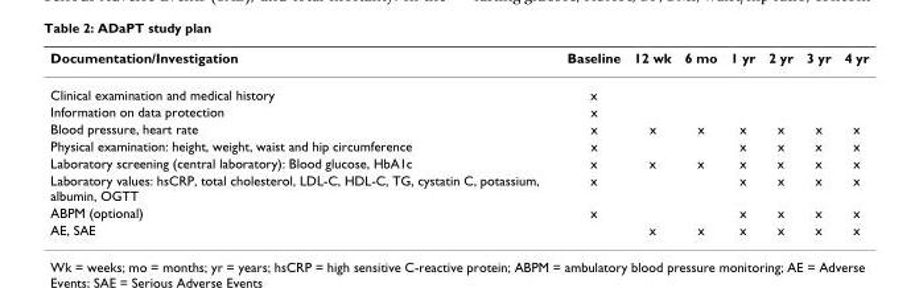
<table><thead><tr><td>Documentation/Investigation</td><td>Baseline</td><td>12 wk</td><td>6 mo</td><td>1 yr</td><td>2 yr</td><td>3 yr</td><td>4 yr</td></tr></thead><tbody><tr><td>Clinical examination and medical history</td><td>x</td><td></td><td></td><td></td><td></td><td></td><td></td></tr><tr><td>Information on data protection</td><td>x</td><td></td><td></td><td></td><td></td><td></td><td></td></tr><tr><td>Blood pressure, heart rate</td><td>x</td><td>x</td><td>x</td><td>x</td><td>x</td><td>x</td><td>x</td></tr><tr><td>Physical examination: height, weight, waist and hip circumference</td><td>x</td><td></td><td></td><td>x</td><td>x</td><td>x</td><td>x</td></tr><tr><td>Laboratory screening (central laboratory): Blood glucose, HbA1c</td><td>x</td><td>x</td><td>x</td><td>x</td><td>x</td><td>x</td><td>x</td></tr><tr><td>Laboratory values: hsCRP, total cholesterol, LDL-C, HDL-C, TG, cystatin C, potassium, albumin, OGTT</td><td>x</td><td></td><td></td><td>x</td><td>x</td><td>x</td><td>x</td></tr><tr><td>ABPM (optional)</td><td>x</td><td></td><td></td><td>x</td><td>x</td><td>x</td><td>x</td></tr><tr><td>AE, SAE</td><td></td><td>x</td><td>x</td><td>x</td><td>x</td><td>x</td><td>x</td></tr></tbody></table>